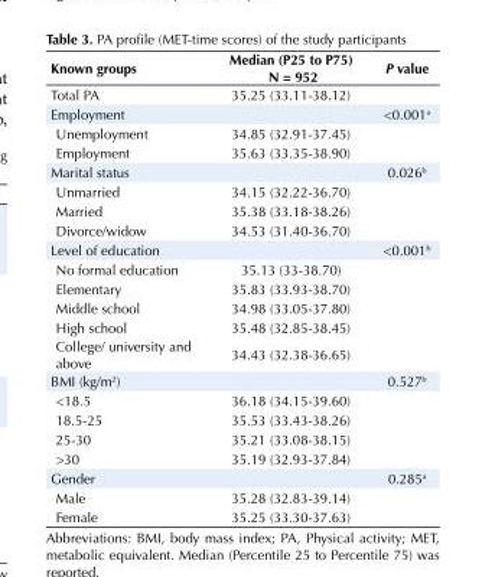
<table><tbody><tr><td>Known groups</td><td>Median (P25 to P75) N = 952</td><td>P value</td></tr><tr><td>Total PA</td><td>35.25 (33.11-38.12)</td><td></td></tr><tr><td>Employment</td><td></td><td>&lt;0.001<sup>a</sup></td></tr><tr><td>Unemployment</td><td>34.85 (32.91-37.45)</td><td></td></tr><tr><td>Employment</td><td>35.63 (33.35-38.90)</td><td></td></tr><tr><td>Marital status</td><td></td><td>0.026<sup>b</sup></td></tr><tr><td>Unmarried</td><td>34.15 (32.22-36.70)</td><td></td></tr><tr><td>Married</td><td>35.38 (33.18-38.26)</td><td></td></tr><tr><td>Divorce/widow</td><td>34.53 (31.40-36.70)</td><td></td></tr><tr><td>Level of education</td><td></td><td>&lt;0.001<sup>b</sup></td></tr><tr><td>No formal education</td><td>35.13 (33-38.70)</td><td></td></tr><tr><td>Elementary</td><td>35.83 (33.93-38.70)</td><td></td></tr><tr><td>Middle school</td><td>34.98 (33.05-37.80)</td><td></td></tr><tr><td>High school</td><td>35.48 (32.85-38.45)</td><td></td></tr><tr><td>College/ university and above</td><td>34.43 (32.38-36.65)</td><td></td></tr><tr><td>BMI (kg/m<sup>2</sup>)</td><td></td><td>0.527<sup>b</sup></td></tr><tr><td>&lt;18.5</td><td>36.18 (34.15-39.60)</td><td></td></tr><tr><td>18.5-25</td><td>35.53 (33.43-38.26)</td><td></td></tr><tr><td>25-30</td><td>35.21 (33.08-38.15)</td><td></td></tr><tr><td>&gt;30</td><td>35.19 (32.93-37.84)</td><td></td></tr><tr><td>Gender</td><td></td><td>0.285<sup>a</sup></td></tr><tr><td>Male</td><td>35.28 (32.83-39.14)</td><td></td></tr><tr><td>Female</td><td>35.25 (33.30-37.63)</td><td></td></tr></tbody></table>